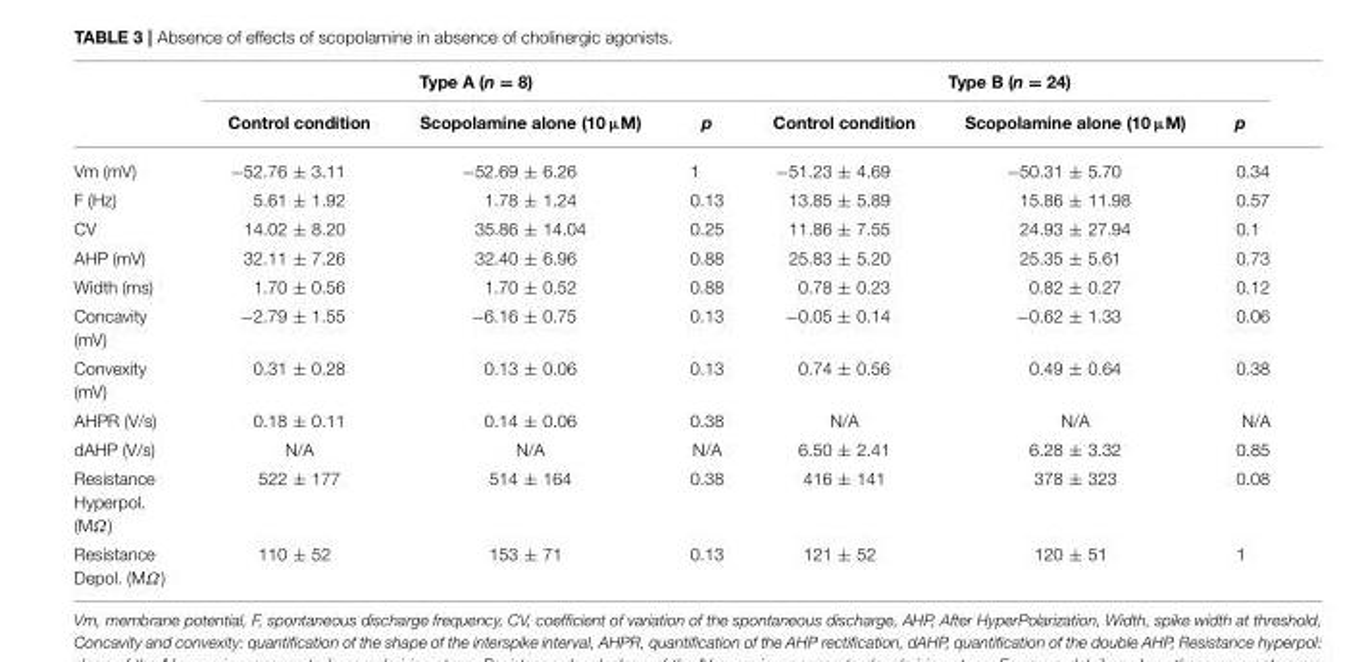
<table><thead><tr><td rowspan="2"></td><td colspan="3">Type A (n = 8)</td><td colspan="3">Type B (n = 24)</td></tr><tr><td>Control condition</td><td>Scopolamine alone (10 µM)</td><td>p</td><td>Control condition</td><td>Scopolamine alone (10 µM)</td><td>p</td></tr></thead><tbody><tr><td>Vm (mV)</td><td>−52.76 ± 3.11</td><td>−52.69 ± 6.26</td><td>1</td><td>−51.23 ± 4.69</td><td>−50.31 ± 5.70</td><td>0.34</td></tr><tr><td>F (Hz)</td><td>5.61 ± 1.92</td><td>1.78 ± 1.24</td><td>0.13</td><td>13.85 ± 5.89</td><td>15.86 ± 11.98</td><td>0.57</td></tr><tr><td>CV</td><td>14.02 ± 8.20</td><td>35.86 ± 14.04</td><td>0.25</td><td>11.86 ± 7.55</td><td>24.93 ± 27.94</td><td>0.1</td></tr><tr><td>AHP (mV)</td><td>32.11 ± 7.26</td><td>32.40 ± 6.96</td><td>0.88</td><td>25.83 ± 5.20</td><td>25.35 ± 5.61</td><td>0.73</td></tr><tr><td>Width (ms)</td><td>1.70 ± 0.56</td><td>1.70 ± 0.52</td><td>0.88</td><td>0.78 ± 0.23</td><td>0.82 ± 0.27</td><td>0.12</td></tr><tr><td>Concavity (mV)</td><td>−2.79 ± 1.55</td><td>−6.16 ± 0.75</td><td>0.13</td><td>−0.05 ± 0.14</td><td>−0.62 ± 1.33</td><td>0.06</td></tr><tr><td>Convexity (mV)</td><td>0.31 ± 0.28</td><td>0.13 ± 0.06</td><td>0.13</td><td>0.74 ± 0.56</td><td>0.49 ± 0.64</td><td>0.38</td></tr><tr><td>AHPR (V/s)</td><td>0.18 ± 0.11</td><td>0.14 ± 0.06</td><td>0.38</td><td>N/A</td><td>N/A</td><td>N/A</td></tr><tr><td>dAHP (V/s)</td><td>N/A</td><td>N/A</td><td>N/A</td><td>6.50 ± 2.41</td><td>6.28 ± 3.32</td><td>0.85</td></tr><tr><td>Resistance Hyperpol. (MΩ)</td><td>522 ± 177</td><td>514 ± 164</td><td>0.38</td><td>416 ± 141</td><td>378 ± 323</td><td>0.08</td></tr><tr><td>Resistance Depol. (MΩ)</td><td>110 ± 52</td><td>153 ± 71</td><td>0.13</td><td>121 ± 52</td><td>120 ± 51</td><td>1</td></tr></tbody></table>